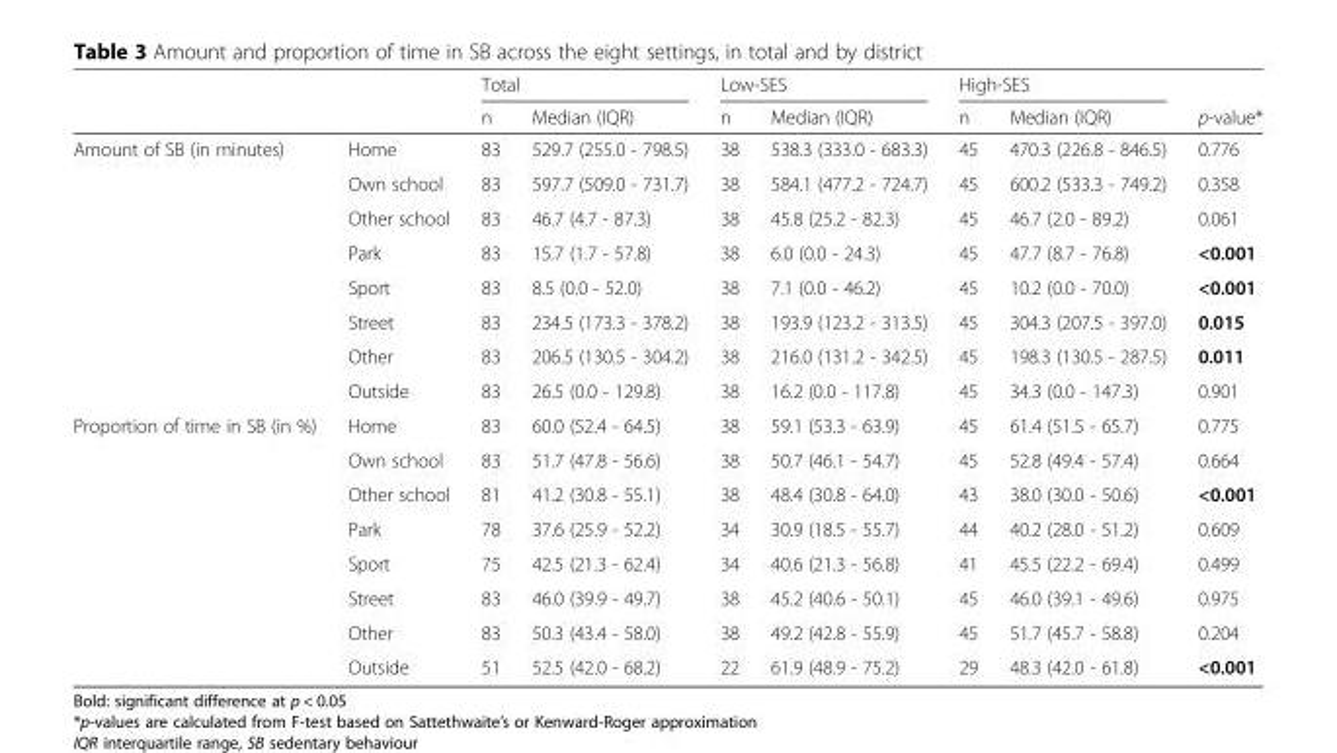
<table><thead><tr><td rowspan="2"></td><td rowspan="2"></td><td colspan="2">Total</td><td colspan="2">Low-SES</td><td colspan="2">High-SES</td><td rowspan="2">p-value*</td></tr><tr><td>n</td><td>Median (IQR)</td><td>n</td><td>Median (IQR)</td><td>n</td><td>Median (IQR)</td></tr></thead><tbody><tr><td rowspan="8">Amount of SB (in minutes)</td><td>Home</td><td>83</td><td>529.7 (255.0 - 798.5)</td><td>38</td><td>538.3 (333.0 - 683.3)</td><td>45</td><td>470.3 (226.8 - 846.5)</td><td>0.776</td></tr><tr><td>Own school</td><td>83</td><td>597.7 (509.0 - 731.7)</td><td>38</td><td>584.1 (477.2 - 724.7)</td><td>45</td><td>600.2 (533.3 - 749.2)</td><td>0.358</td></tr><tr><td>Other school</td><td>83</td><td>46.7 (4.7 - 87.3)</td><td>38</td><td>45.8 (25.2 - 82.3)</td><td>45</td><td>46.7 (2.0 - 89.2)</td><td>0.061</td></tr><tr><td>Park</td><td>83</td><td>15.7 (1.7 - 57.8)</td><td>38</td><td>6.0 (0.0 - 24.3)</td><td>45</td><td>47.7 (8.7 - 76.8)</td><td>&lt;0.001</td></tr><tr><td>Sport</td><td>83</td><td>8.5 (0.0 - 52.0)</td><td>38</td><td>7.1 (0.0 - 46.2)</td><td>45</td><td>10.2 (0.0 - 70.0)</td><td>&lt;0.001</td></tr><tr><td>Street</td><td>83</td><td>234.5 (173.3 - 378.2)</td><td>38</td><td>193.9 (123.2 - 313.5)</td><td>45</td><td>304.3 (207.5 - 397.0)</td><td>0.015</td></tr><tr><td>Other</td><td>83</td><td>206.5 (130.5 - 304.2)</td><td>38</td><td>216.0 (131.2 - 342.5)</td><td>45</td><td>198.3 (130.5 - 287.5)</td><td>0.011</td></tr><tr><td>Outside</td><td>83</td><td>26.5 (0.0 - 129.8)</td><td>38</td><td>16.2 (0.0 - 117.8)</td><td>45</td><td>34.3 (0.0 - 147.3)</td><td>0.901</td></tr><tr><td rowspan="8">Proportion of time in SB (in %)</td><td>Home</td><td>83</td><td>60.0 (52.4 - 64.5)</td><td>38</td><td>59.1 (53.3 - 63.9)</td><td>45</td><td>61.4 (51.5 - 65.7)</td><td>0.775</td></tr><tr><td>Own school</td><td>83</td><td>51.7 (47.8 - 56.6)</td><td>38</td><td>50.7 (46.1 - 54.7)</td><td>45</td><td>52.8 (49.4 - 57.4)</td><td>0.664</td></tr><tr><td>Other school</td><td>81</td><td>41.2 (30.8 - 55.1)</td><td>38</td><td>48.4 (30.8 - 64.0)</td><td>43</td><td>38.0 (30.0 - 50.6)</td><td>&lt;0.001</td></tr><tr><td>Park</td><td>78</td><td>37.6 (25.9 - 52.2)</td><td>34</td><td>30.9 (18.5 - 55.7)</td><td>44</td><td>40.2 (28.0 - 51.2)</td><td>0.609</td></tr><tr><td>Sport</td><td>75</td><td>42.5 (21.3 - 62.4)</td><td>34</td><td>40.6 (21.3 - 56.8)</td><td>41</td><td>45.5 (22.2 - 69.4)</td><td>0.499</td></tr><tr><td>Street</td><td>83</td><td>46.0 (39.9 - 49.7)</td><td>38</td><td>45.2 (40.6 - 50.1)</td><td>45</td><td>46.0 (39.1 - 49.6)</td><td>0.975</td></tr><tr><td>Other</td><td>83</td><td>50.3 (43.4 - 58.0)</td><td>38</td><td>49.2 (42.8 - 55.9)</td><td>45</td><td>51.7 (45.7 - 58.8)</td><td>0.204</td></tr><tr><td>Outside</td><td>51</td><td>52.5 (42.0 - 68.2)</td><td>22</td><td>61.9 (48.9 - 75.2)</td><td>29</td><td>48.3 (42.0 - 61.8)</td><td>&lt;0.001</td></tr></tbody></table>